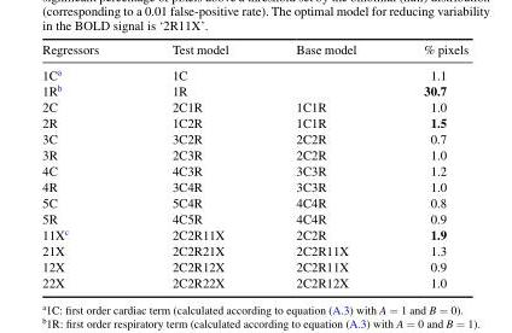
<table><thead><tr><td>Regressors</td><td>Test model</td><td>Base model</td><td>% pixels</td></tr></thead><tbody><tr><td>1C<sup>a</sup></td><td>1C</td><td></td><td>1.1</td></tr><tr><td>1R<sup>b</sup></td><td>1R</td><td></td><td>30.7</td></tr><tr><td>2C</td><td>2C1R</td><td>1C1R</td><td>1.0</td></tr><tr><td>2R</td><td>1C2R</td><td>1C1R</td><td>1.5</td></tr><tr><td>3C</td><td>3C2R</td><td>2C2R</td><td>0.7</td></tr><tr><td>3R</td><td>2C3R</td><td>2C2R</td><td>1.0</td></tr><tr><td>4C</td><td>4C3R</td><td>3C3R</td><td>1.2</td></tr><tr><td>4R</td><td>3C4R</td><td>3C3R</td><td>1.0</td></tr><tr><td>5C</td><td>5C4R</td><td>4C4R</td><td>0.8</td></tr><tr><td>5R</td><td>4C5R</td><td>4C4R</td><td>0.9</td></tr><tr><td>11X<sup>c</sup></td><td>2C2R11X</td><td>2C2R</td><td>1.9</td></tr><tr><td>21X</td><td>2C2R21X</td><td>2C2R11X</td><td>1.3</td></tr><tr><td>12X</td><td>2C2R12X</td><td>2C2R11X</td><td>0.9</td></tr><tr><td>22X</td><td>2C2R22X</td><td>2C2R12X</td><td>1.0</td></tr></tbody></table>